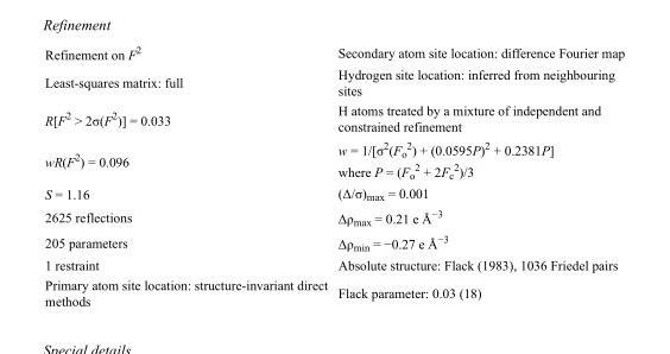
<table><tbody><tr><td>Refinement on F<sup>2</sup></td><td>Secondary atom site location: difference Fourier map</td></tr><tr><td>Least-squares matrix: full</td><td>Hydrogen site location: inferred from neighbouring sites</td></tr><tr><td>R[F<sup>2</sup> &gt; 2σ(F<sup>2</sup>)] = 0.033</td><td>H atoms treated by a mixture of independent and constrained refinement</td></tr><tr><td>wR(F<sup>2</sup>) = 0.096</td><td>w = 1/[σ<sup>2</sup>(F<sub>o</sub> <sup>2</sup>) + (0.0595P)<sup>2</sup> + 0.2381P] where P = (F<sub>o</sub> <sup>2</sup> + 2F<sub>c</sub> <sup>2</sup>)/3</td></tr><tr><td>S = 1.16</td><td>(Δ/σ)<sub>max</sub> = 0.001</td></tr><tr><td>2625 reflections</td><td>Δρ<sub>max</sub> = 0.21 e Å<sup>−3</sup></td></tr><tr><td>205 parameters</td><td>Δρ<sub>min</sub> = −0.27 e Å<sup>−3</sup></td></tr><tr><td>1 restraint</td><td>Absolute structure: Flack (1983), 1036 Friedel pairs</td></tr><tr><td>Primary atom site location: structure-invariant direct methods</td><td>Flack parameter: 0.03 (18)</td></tr></tbody></table>